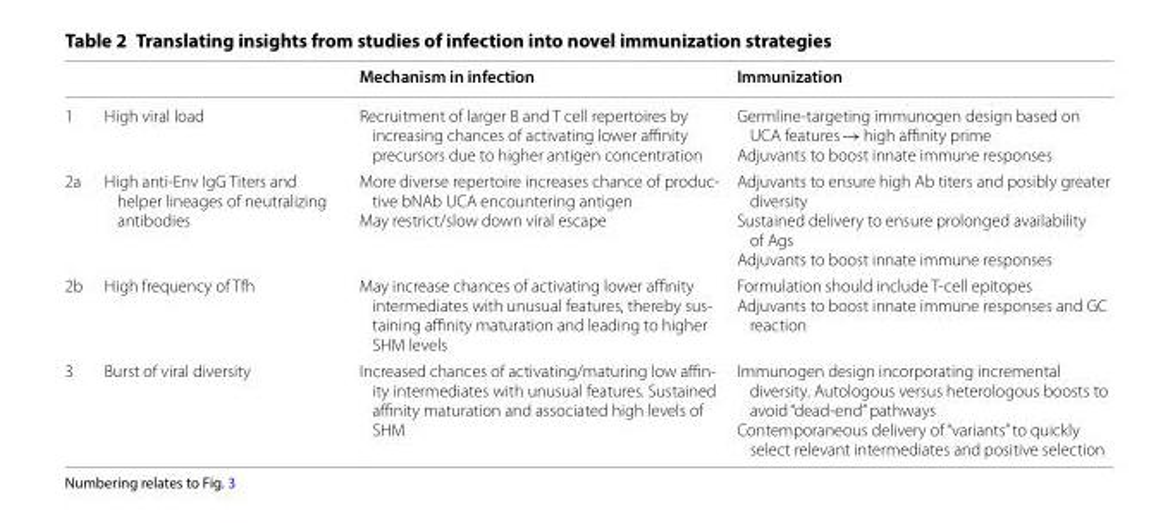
<table><thead><tr><td></td><td></td><td>Mechanism in infection</td><td>Immunization</td></tr></thead><tbody><tr><td>1</td><td>High viral load</td><td>Recruitment of larger B and T cell repertoires by increasing chances of activating lower affinity precursors due to higher antigen concentration</td><td>Germline-targeting immunogen design based on UCA features → high affinity prime Adjuvants to boost innate immune responses</td></tr><tr><td>2a</td><td>High anti-Env IgG Titers and helper lineages of neutralizing antibodies</td><td>More diverse repertoire increases chance of produc- tive bNAb UCA encountering antigen May restrict/slow down viral escape</td><td>Adjuvants to ensure high Ab titers and posibly greater diversity Sustained delivery to ensure prolonged availability of Ags Adjuvants to boost innate immune responses</td></tr><tr><td>2b</td><td>High frequency of Tfh</td><td>May increase chances of activating lower affinity intermediates with unusual features, thereby sus- taining affinity maturation and leading to higher SHM levels</td><td>Formulation should include T-cell epitopes Adjuvants to boost innate immune responses and GC reaction</td></tr><tr><td>3</td><td>Burst of viral diversity</td><td>Increased chances of activating/maturing low affin- ity intermediates with unusual features. Sustained affinity maturation and associated high levels of SHM</td><td>Immunogen design incorporating incremental diversity. Autologous versus heterologous boosts to avoid “dead-end” pathways Contemporaneous delivery of “variants” to quickly select relevant intermediates and positive selection</td></tr></tbody></table>